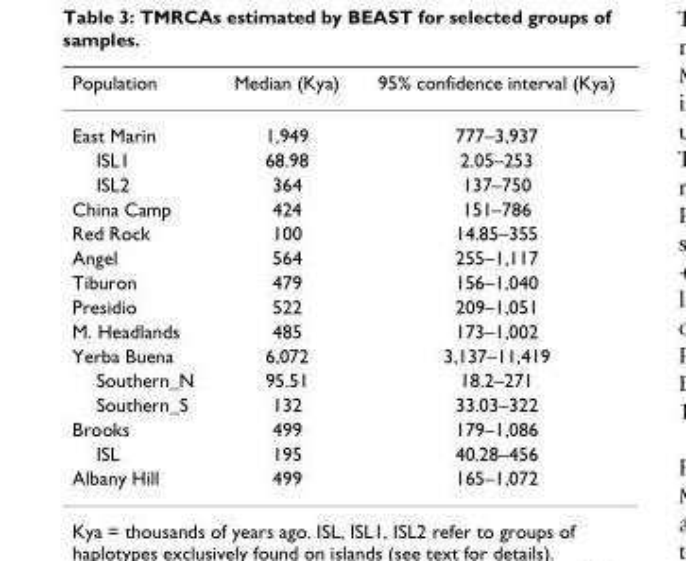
<table><thead><tr><td>Population</td><td>Median (Kya)</td><td>95% confidence interval (Kya)</td></tr></thead><tbody><tr><td>East Marin</td><td>1,949</td><td>777–3,937</td></tr><tr><td>ISL1</td><td>68.98</td><td>2.05–253</td></tr><tr><td>ISL2</td><td>364</td><td>137–750</td></tr><tr><td>China Camp</td><td>424</td><td>151–786</td></tr><tr><td>Red Rock</td><td>100</td><td>14.85–355</td></tr><tr><td>Angel</td><td>564</td><td>255–1,117</td></tr><tr><td>Tiburon</td><td>479</td><td>156–1,040</td></tr><tr><td>Presidio</td><td>522</td><td>209–1,051</td></tr><tr><td>M. Headlands</td><td>485</td><td>173–1,002</td></tr><tr><td>Yerba Buena</td><td>6,072</td><td>3,137–11,419</td></tr><tr><td>Southern_N</td><td>95.51</td><td>18.2–271</td></tr><tr><td>Southern_S</td><td>132</td><td>33.03–322</td></tr><tr><td>Brooks</td><td>499</td><td>179–1,086</td></tr><tr><td>ISL</td><td>195</td><td>40.28–456</td></tr><tr><td>Albany Hill</td><td>499</td><td>165–1,072</td></tr></tbody></table>